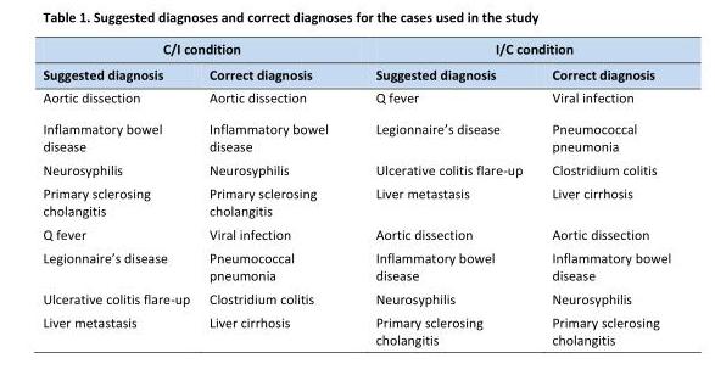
<table><thead><tr><td colspan="2">C/I condition</td><td colspan="2">I/C condition</td></tr><tr><td>Suggested diagnosis</td><td>Correct diagnosis</td><td>Suggested diagnosis</td><td>Correct diagnosis</td></tr></thead><tbody><tr><td>Aortic dissection</td><td>Aortic dissection</td><td>Q fever</td><td>Viral infection</td></tr><tr><td>Inflammatory bowel disease</td><td>Inflammatory bowel disease</td><td>Legionnaire’s disease</td><td>Pneumococcal pneumonia</td></tr><tr><td>Neurosyphilis</td><td>Neurosyphilis</td><td>Ulcerative colitis flare-up</td><td>Clostridium colitis</td></tr><tr><td>Primary sclerosing cholangitis</td><td>Primary sclerosing cholangitis</td><td>Liver metastasis</td><td>Liver cirrhosis</td></tr><tr><td>Q fever</td><td>Viral infection</td><td>Aortic dissection</td><td>Aortic dissection</td></tr><tr><td>Legionnaire’s disease</td><td>Pneumococcal pneumonia</td><td>Inflammatory bowel disease</td><td>Inflammatory bowel disease</td></tr><tr><td>Ulcerative colitis flare-up</td><td>Clostridium colitis</td><td>Neurosyphilis</td><td>Neurosyphilis</td></tr><tr><td>Liver metastasis</td><td>Liver cirrhosis</td><td>Primary sclerosing cholangitis</td><td>Primary sclerosing cholangitis</td></tr></tbody></table>